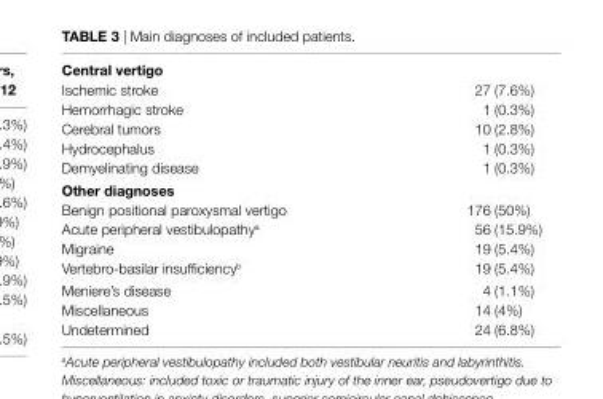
<table><tbody><tr><td colspan="2">central vertigo</td></tr><tr><td>Ischemic stroke</td><td>27 (7.6%)</td></tr><tr><td>Hemorrhagic stroke</td><td>1 (0.3%)</td></tr><tr><td>Cerebral tumors</td><td>10 (2.8%)</td></tr><tr><td>Hydrocephalus</td><td>1 (0.3%)</td></tr><tr><td>Demyelinating disease</td><td>1 (0.3%)</td></tr><tr><td colspan="2">Other diagnoses</td></tr><tr><td>Benign positional paroxysmal vertigo</td><td>176 (50%)</td></tr><tr><td>Acute peripheral vestibulopathy<sup>a</sup></td><td>56 (15.9%)</td></tr><tr><td>Migraine</td><td>19 (5.4%)</td></tr><tr><td>Vertebro-basilar insufficiency<sup>b</sup></td><td>19 (5.4%)</td></tr><tr><td>Meniere’s disease</td><td>4 (1.1%)</td></tr><tr><td>Miscellaneous</td><td>14 (4%)</td></tr><tr><td>Undetermined</td><td>24 (6.8%)</td></tr></tbody></table>